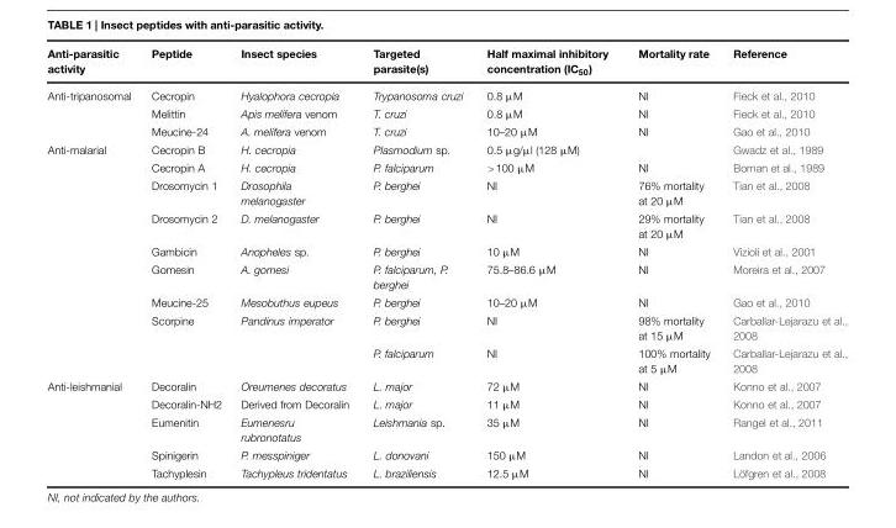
<table><thead><tr><td>Anti-parasitic activity</td><td>Peptide</td><td>Insect species</td><td>Targeted parasite(s)</td><td>Half maximal inhibitory concentration (IC<sub>50</sub>)</td><td>Mortality rate</td><td>Reference</td></tr></thead><tbody><tr><td rowspan="3">Anti-tripanosomal</td><td>Cecropin</td><td>Hyalophora cecropia</td><td>Trypanosoma cruzi</td><td>0.8 μM</td><td>NI</td><td>Fieck et al., 2010</td></tr><tr><td>Melittin</td><td>Apis melífera venom</td><td>T. cruzi</td><td>0.8 μM</td><td>NI</td><td>Fieck et al., 2010</td></tr><tr><td>Meucine-24</td><td>A. melífera venom</td><td>T. cruzi</td><td>10–20 μM</td><td>NI</td><td>Gao et al., 2010</td></tr><tr><td rowspan="9">Anti-malarial</td><td>Cecropin B</td><td>H. cecropia</td><td>Plasmodium sp.</td><td>0.5 μg/μl (128 μM)</td><td></td><td>Gwadz et al., 1989</td></tr><tr><td>Cecropin A</td><td>H. cecropia</td><td>P. falciparum</td><td>&gt;100 μM</td><td>NI</td><td>Boman et al., 1989</td></tr><tr><td>Drosomycin 1</td><td>Drosophila melanogaster</td><td>P. berghei</td><td>NI</td><td>76% mortality at 20 μM</td><td>Tian et al., 2008</td></tr><tr><td>Drosomycin 2</td><td>D. melanogaster</td><td>P. berghei</td><td>NI</td><td>29% mortality at 20 μM</td><td>Tian et al., 2008</td></tr><tr><td>Gambicin</td><td>Anopheles sp.</td><td>P. berghei</td><td>10 μM</td><td>NI</td><td>Vizioli et al., 2001</td></tr><tr><td>Gomesin</td><td>A. gomesi</td><td>P. falciparum, P. berghei</td><td>75.8–86.6 μM</td><td>NI</td><td>Moreira et al., 2007</td></tr><tr><td>Meucine-25</td><td>Mesobuthus eupeus</td><td>P. berghei</td><td>10–20 μM</td><td>NI</td><td>Gao et al., 2010</td></tr><tr><td>Scorpine</td><td>Pandinus imperator</td><td>P. berghei</td><td>NI</td><td>98% mortality at 15 μM</td><td>Carballar-Lejarazu et al., 2008</td></tr><tr><td></td><td></td><td>P. falciparum</td><td>NI</td><td>100% mortality at 5 μM</td><td>Carballar-Lejarazu et al., 2008</td></tr><tr><td rowspan="5">Anti-leishmanial</td><td>Decoralin</td><td>Oreumenes decoratus</td><td>L. major</td><td>72 μM</td><td>NI</td><td>Konno et al., 2007</td></tr><tr><td>Decoralin-NH2</td><td>Derived from Decoralin</td><td>L. major</td><td>11 μM</td><td>NI</td><td>Konno et al., 2007</td></tr><tr><td>Eumenitin</td><td>Eumenesru rubronotatus</td><td>Leishmania sp.</td><td>35 μM</td><td>NI</td><td>Rangel et al., 2011</td></tr><tr><td>Spinigerin</td><td>P. messpiniger</td><td>L. donovani</td><td>150 μM</td><td>NI</td><td>Landon et al., 2006</td></tr><tr><td>Tachyplesin</td><td>Tachypleus tridentatus</td><td>L. braziliensis</td><td>12.5 μM</td><td>NI</td><td>Löfgren et al., 2008</td></tr></tbody></table>